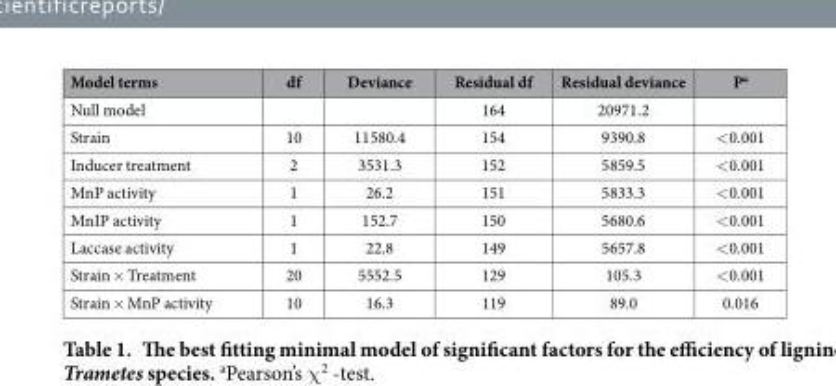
<table><thead><tr><td>Model terms</td><td>df</td><td>Deviance</td><td>Residual df</td><td>Residual deviance</td><td>P<sup>a</sup></td></tr></thead><tbody><tr><td>Null model</td><td></td><td></td><td>164</td><td>20971.2</td><td></td></tr><tr><td>Strain</td><td>10</td><td>11580.4</td><td>154</td><td>9390.8</td><td>&lt; 0.001</td></tr><tr><td>Inducer treatment</td><td>2</td><td>3531.3</td><td>152</td><td>5859.5</td><td>&lt; 0.001</td></tr><tr><td>MnP activity</td><td>1</td><td>26.2</td><td>151</td><td>5833.3</td><td>&lt; 0.001</td></tr><tr><td>MnIP activity</td><td>1</td><td>152.7</td><td>150</td><td>5680.6</td><td>&lt; 0.001</td></tr><tr><td>Laccase activity</td><td>1</td><td>22.8</td><td>149</td><td>5657.8</td><td>&lt; 0.001</td></tr><tr><td>Strain × Treatment</td><td>20</td><td>5552.5</td><td>129</td><td>105.3</td><td>&lt; 0.001</td></tr><tr><td>Strain × MnP activity</td><td>10</td><td>16.3</td><td>119</td><td>89.0</td><td>0.016</td></tr></tbody></table>